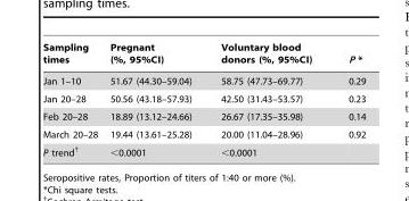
<table><thead><tr><td>Sampling times</td><td>Pregnant (%, 95%CI)</td><td>Voluntary blood donors (%, 95%CI)</td><td>P *</td></tr></thead><tbody><tr><td>Jan 1–10</td><td>51.67 (44.30–59.04)</td><td>58.75 (47.73–69.77)</td><td>0.29</td></tr><tr><td>Jan 20–28</td><td>50.56 (43.18–57.93)</td><td>42.50 (31.43–53.57)</td><td>0.23</td></tr><tr><td>Feb 20–28</td><td>18.89 (13.12–24.66)</td><td>26.67 (17.35–35.98)</td><td>0.14</td></tr><tr><td>March 20–28</td><td>19.44 (13.61–25.28)</td><td>20.00 (11.04–28.96)</td><td>0.92</td></tr><tr><td>P trend†</td><td>&lt;0.0001</td><td>&lt;0.0001</td><td></td></tr></tbody></table>